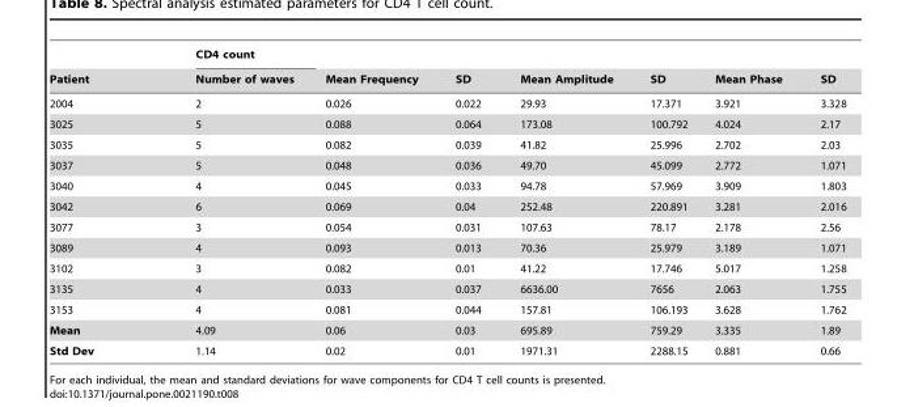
<table><thead><tr><td rowspan="2">Patient</td><td rowspan="2">CD4 count Number of waves</td><td rowspan="2">Mean Frequency</td><td rowspan="2">SD</td><td rowspan="2">Mean Amplitude</td><td rowspan="2">SD</td><td rowspan="2">Mean Phase</td><td rowspan="2">SD</td></tr><tr></tr></thead><tbody><tr><td>2004</td><td>2</td><td>0.026</td><td>0.022</td><td>29.93</td><td>17.371</td><td>3.921</td><td>3.328</td></tr><tr><td>3025</td><td>5</td><td>0.088</td><td>0.064</td><td>173.08</td><td>100.792</td><td>4.024</td><td>2.17</td></tr><tr><td>3035</td><td>5</td><td>0.082</td><td>0.039</td><td>41.82</td><td>25.996</td><td>2.702</td><td>2.03</td></tr><tr><td>3037</td><td>5</td><td>0.048</td><td>0.036</td><td>49.70</td><td>45.099</td><td>2.772</td><td>1.071</td></tr><tr><td>3040</td><td>4</td><td>0.045</td><td>0.033</td><td>94.78</td><td>57.969</td><td>3.909</td><td>1.803</td></tr><tr><td>3042</td><td>6</td><td>0.069</td><td>0.04</td><td>252.48</td><td>220.891</td><td>3.281</td><td>2.016</td></tr><tr><td>3077</td><td>3</td><td>0.054</td><td>0.031</td><td>107.63</td><td>78.17</td><td>2.178</td><td>2.56</td></tr><tr><td>3089</td><td>4</td><td>0.093</td><td>0.013</td><td>70.36</td><td>25.979</td><td>3.189</td><td>1.071</td></tr><tr><td>3102</td><td>3</td><td>0.082</td><td>0.01</td><td>41.22</td><td>17.746</td><td>5.017</td><td>1.258</td></tr><tr><td>3135</td><td>4</td><td>0.033</td><td>0.037</td><td>6636.00</td><td>7656</td><td>2.063</td><td>1.755</td></tr><tr><td>3153</td><td>4</td><td>0.081</td><td>0.044</td><td>157.81</td><td>106.193</td><td>3.628</td><td>1.762</td></tr><tr><td>Mean</td><td>4.09</td><td>0.06</td><td>0.03</td><td>695.89</td><td>759.29</td><td>3.335</td><td>1.89</td></tr><tr><td>Std Dev</td><td>1.14</td><td>0.02</td><td>0.01</td><td>1971.31</td><td>2288.15</td><td>0.881</td><td>0.66</td></tr></tbody></table>